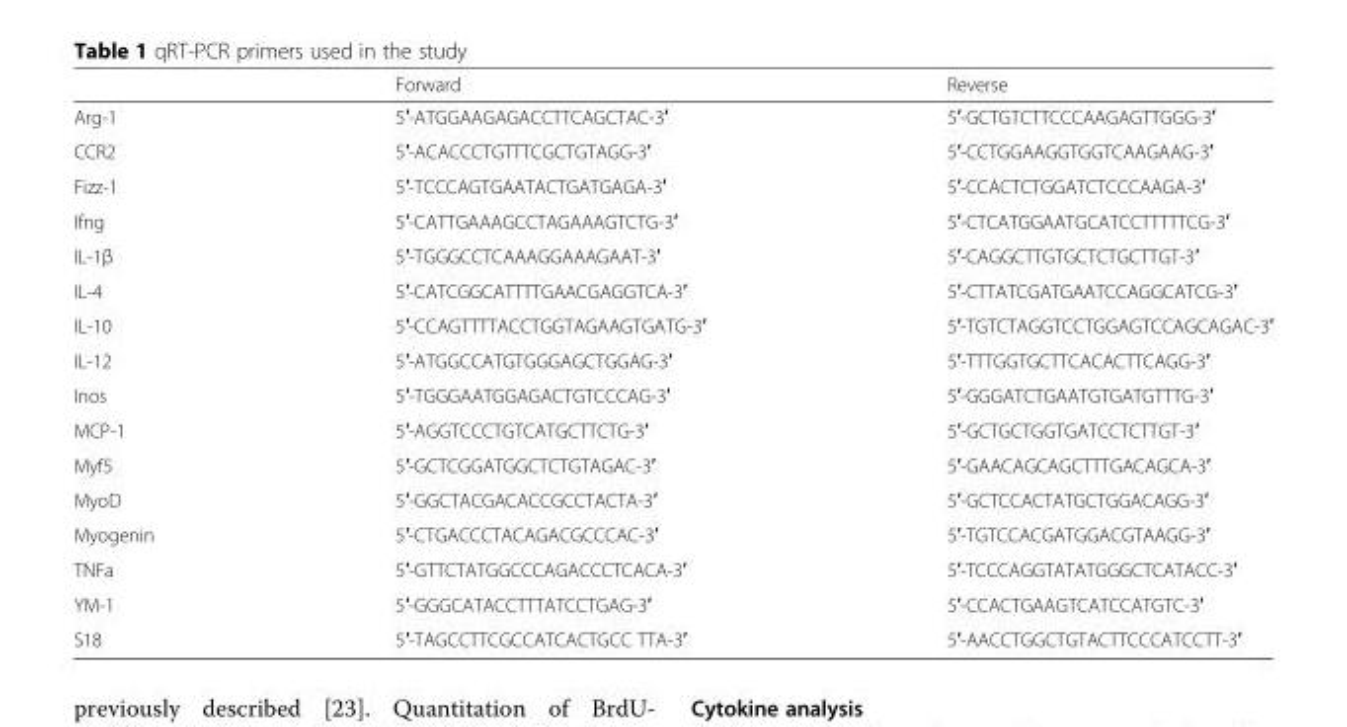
<table><thead><tr><td></td><td>Forward</td><td>Reverse</td></tr></thead><tbody><tr><td>Arg-1</td><td>5′-ATGGAAGAGACCTTCAGCTAC-3′</td><td>5′-GCTGTCTTCCCAAGAGTTGGG-3′</td></tr><tr><td>CCR2</td><td>5′-ACACCCTGTTTCGCTGTAGG-3′</td><td>5′-CCTGGAAGGTGGTCAAGAAG-3′</td></tr><tr><td>Fizz-1</td><td>5′-TCCCAGTGAATACTGATGAGA-3′</td><td>5′-CCACTCTGGATCTCCCAAGA-3′</td></tr><tr><td>Ifng</td><td>5′-CATTGAAAGCCTAGAAAGTCTG-3′</td><td>5′-CTCATGGAATGCATCCTTTTTCG-3′</td></tr><tr><td>IL-1β</td><td>5′-TGGGCCTCAAAGGAAAGAAT-3′</td><td>5′-CAGGCTTGTGCTCTGCTTGT-3′</td></tr><tr><td>IL-4</td><td>5′-CATCGGCATTTTGAACGAGGTCA-3′</td><td>5′-CTTATCGATGAATCCAGGCATCG-3′</td></tr><tr><td>IL-10</td><td>5′-CCAGTTTTACCTGGTAGAAGTGATG-3′</td><td>5′-TGTCTAGGTCCTGGAGTCCAGCAGAC-3′</td></tr><tr><td>IL-12</td><td>5′-ATGGCCATGTGGGAGCTGGAG-3′</td><td>5′-TTTGGTGCTTCACACTTCAGG-3′</td></tr><tr><td>Inos</td><td>5′-TGGGAATGGAGACTGTCCCAG-3′</td><td>5′-GGGATCTGAATGTGATGTTTG-3′</td></tr><tr><td>MCP-1</td><td>5′-AGGTCCCTGTCATGCTTCTG-3′</td><td>5′-GCTGCTGGTGATCCTCTTGT-3′</td></tr><tr><td>Myf5</td><td>5′-GCTCGGATGGCTCTGTAGAC-3′</td><td>5′-GAACAGCAGCTTTGACAGCA-3′</td></tr><tr><td>MyoD</td><td>5′-GGCTACGACACCGCCTACTA-3′</td><td>5′-GCTCCACTATGCTGGACAGG-3′</td></tr><tr><td>Myogenin</td><td>5′-CTGACCCTACAGACGCCCAC-3′</td><td>5′-TGTCCACGATGGACGTAAGG-3′</td></tr><tr><td>TNFa</td><td>5′-GTTCTATGGCCCAGACCCTCACA-3′</td><td>5′-TCCCAGGTATATGGGCTCATACC-3′</td></tr><tr><td>YM-1</td><td>5′-GGGCATACCTTTATCCTGAG-3′</td><td>5′-CCACTGAAGTCATCCATGTC-3′</td></tr><tr><td>S18</td><td>5′-TAGCCTTCGCCATCACTGCC TTA-3′</td><td>5′-AACCTGGCTGTACTTCCCATCCTT-3′</td></tr></tbody></table>